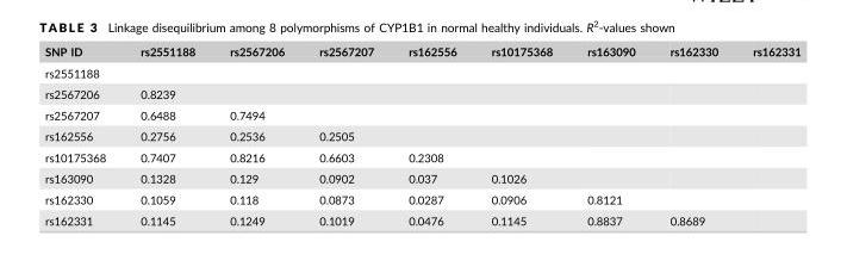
<table><thead><tr><td>SNP ID</td><td>rs2551188</td><td>rs2567206</td><td>rs2567207</td><td>rs162556</td><td>rs10175368</td><td>rs163090</td><td>rs162330</td><td>rs162331</td></tr></thead><tbody><tr><td colspan="9">rs2551188</td></tr><tr><td>rs2567206</td><td>0.8239</td><td></td><td></td><td></td><td></td><td></td><td></td><td></td></tr><tr><td>rs2567207</td><td>0.6488</td><td>0.7494</td><td></td><td></td><td></td><td></td><td></td><td></td></tr><tr><td>rs162556</td><td>0.2756</td><td>0.2536</td><td>0.2505</td><td></td><td></td><td></td><td></td><td></td></tr><tr><td>rs10175368</td><td>0.7407</td><td>0.8216</td><td>0.6603</td><td>0.2308</td><td></td><td></td><td></td><td></td></tr><tr><td>rs163090</td><td>0.1328</td><td>0.129</td><td>0.0902</td><td>0.037</td><td>0.1026</td><td></td><td></td><td></td></tr><tr><td>rs162330</td><td>0.1059</td><td>0.118</td><td>0.0873</td><td>0.0287</td><td>0.0906</td><td>0.8121</td><td></td><td></td></tr><tr><td>rs162331</td><td>0.1145</td><td>0.1249</td><td>0.1019</td><td>0.0476</td><td>0.1145</td><td>0.8837</td><td>0.8689</td><td></td></tr></tbody></table>